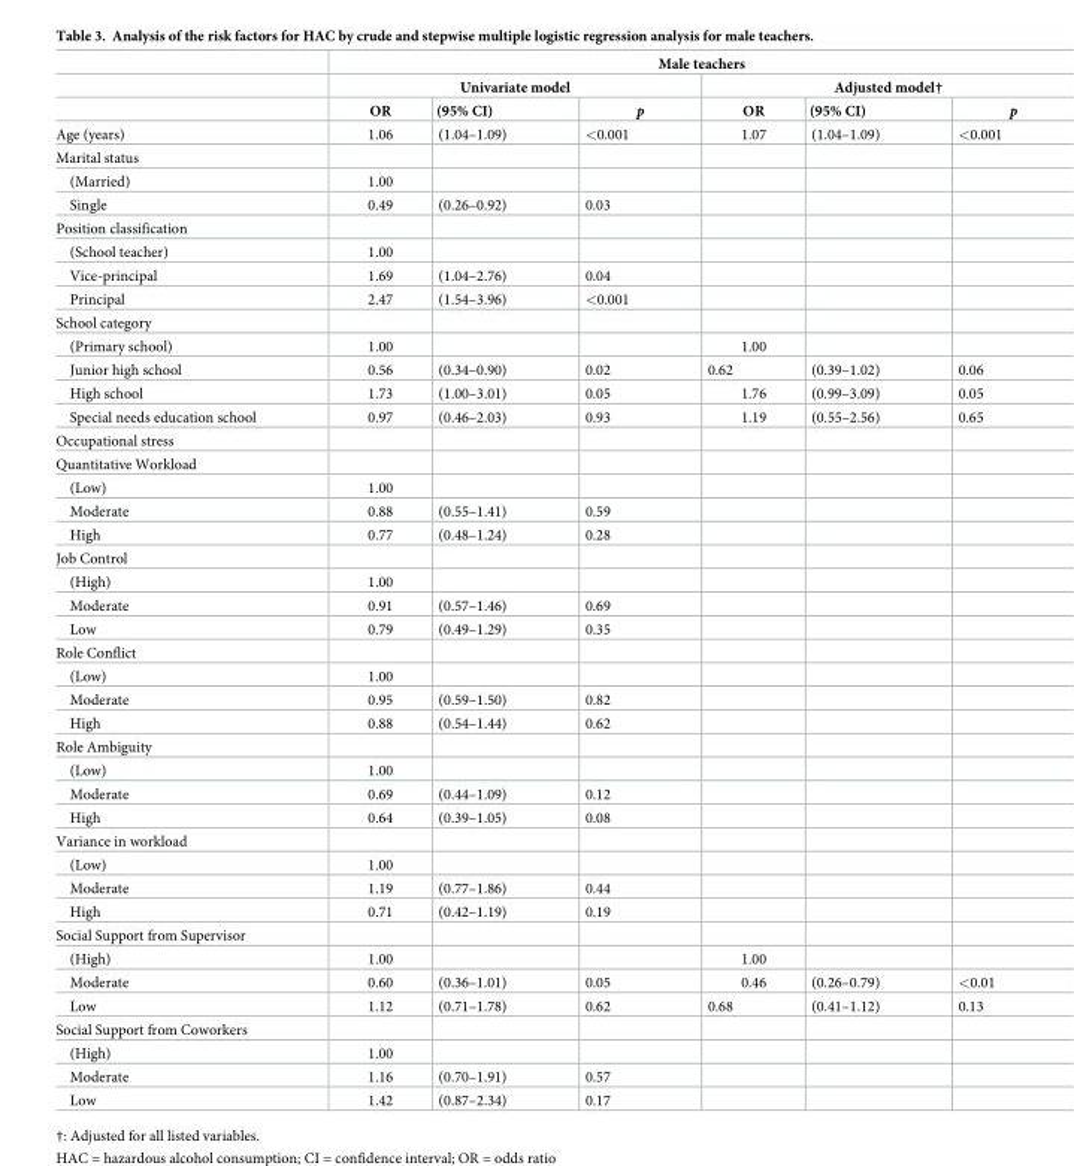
<table><thead><tr><td rowspan="3"></td><td colspan="6">Male teachers</td></tr><tr><td colspan="3">Univariate model</td><td colspan="3">Adjusted model†</td></tr><tr><td>OR</td><td>(95% CI)</td><td>p</td><td>OR</td><td>(95% CI)</td><td>p</td></tr></thead><tbody><tr><td>Age (years)</td><td>1.06</td><td>(1.04–1.09)</td><td>&lt;0.001</td><td>1.07</td><td>(1.04–1.09)</td><td>&lt;0.001</td></tr><tr><td colspan="7">Marital status</td></tr><tr><td>(Married)</td><td>1.00</td><td></td><td></td><td></td><td></td><td></td></tr><tr><td>Single</td><td>0.49</td><td>(0.26–0.92)</td><td>0.03</td><td></td><td></td><td></td></tr><tr><td colspan="7">Position classification</td></tr><tr><td>(School teacher)</td><td>1.00</td><td></td><td></td><td></td><td></td><td></td></tr><tr><td>Vice-principal</td><td>1.69</td><td>(1.04–2.76)</td><td>0.04</td><td></td><td></td><td></td></tr><tr><td>Principal</td><td>2.47</td><td>(1.54–3.96)</td><td>&lt;0.001</td><td></td><td></td><td></td></tr><tr><td colspan="7">School category</td></tr><tr><td>(Primary school)</td><td>1.00</td><td></td><td></td><td>1.00</td><td></td><td></td></tr><tr><td>Junior high school</td><td>0.56</td><td>(0.34–0.90)</td><td>0.02</td><td>0.62</td><td>(0.39–1.02)</td><td>0.06</td></tr><tr><td>High school</td><td>1.73</td><td>(1.00–3.01)</td><td>0.05</td><td>1.76</td><td>(0.99–3.09)</td><td>0.05</td></tr><tr><td>Special needs education school</td><td>0.97</td><td>(0.46–2.03)</td><td>0.93</td><td>1.19</td><td>(0.55–2.56)</td><td>0.65</td></tr><tr><td colspan="7">Occupational stress</td></tr><tr><td colspan="7">Quantitative Workload</td></tr><tr><td>(Low)</td><td>1.00</td><td></td><td></td><td></td><td></td><td></td></tr><tr><td>Moderate</td><td>0.88</td><td>(0.55–1.41)</td><td>0.59</td><td></td><td></td><td></td></tr><tr><td>High</td><td>0.77</td><td>(0.48–1.24)</td><td>0.28</td><td></td><td></td><td></td></tr><tr><td colspan="7">Job Control</td></tr><tr><td>(High)</td><td>1.00</td><td></td><td></td><td></td><td></td><td></td></tr><tr><td>Moderate</td><td>0.91</td><td>(0.57–1.46)</td><td>0.69</td><td></td><td></td><td></td></tr><tr><td>Low</td><td>0.79</td><td>(0.49–1.29)</td><td>0.35</td><td></td><td></td><td></td></tr><tr><td colspan="7">Role Conflict</td></tr><tr><td>(Low)</td><td>1.00</td><td></td><td></td><td></td><td></td><td></td></tr><tr><td>Moderate</td><td>0.95</td><td>(0.59–1.50)</td><td>0.82</td><td></td><td></td><td></td></tr><tr><td>High</td><td>0.88</td><td>(0.54–1.44)</td><td>0.62</td><td></td><td></td><td></td></tr><tr><td colspan="7">Role Ambiguity</td></tr><tr><td>(Low)</td><td>1.00</td><td></td><td></td><td></td><td></td><td></td></tr><tr><td>Moderate</td><td>0.69</td><td>(0.44–1.09)</td><td>0.12</td><td></td><td></td><td></td></tr><tr><td>High</td><td>0.64</td><td>(0.39–1.05)</td><td>0.08</td><td></td><td></td><td></td></tr><tr><td colspan="7">Variance in workload</td></tr><tr><td>(Low)</td><td>1.00</td><td></td><td></td><td></td><td></td><td></td></tr><tr><td>Moderate</td><td>1.19</td><td>(0.77–1.86)</td><td>0.44</td><td></td><td></td><td></td></tr><tr><td>High</td><td>0.71</td><td>(0.42–1.19)</td><td>0.19</td><td></td><td></td><td></td></tr><tr><td colspan="7">Social Support from Supervisor</td></tr><tr><td>(High)</td><td>1.00</td><td></td><td></td><td>1.00</td><td></td><td></td></tr><tr><td>Moderate</td><td>0.60</td><td>(0.36–1.01)</td><td>0.05</td><td>0.46</td><td>(0.26–0.79)</td><td>&lt;0.01</td></tr><tr><td>Low</td><td>1.12</td><td>(0.71–1.78)</td><td>0.62</td><td>0.68</td><td>(0.41–1.12)</td><td>0.13</td></tr><tr><td colspan="7">Social Support from Coworkers</td></tr><tr><td>(High)</td><td>1.00</td><td></td><td></td><td></td><td></td><td></td></tr><tr><td>Moderate</td><td>1.16</td><td>(0.70–1.91)</td><td>0.57</td><td></td><td></td><td></td></tr><tr><td>Low</td><td>1.42</td><td>(0.87–2.34)</td><td>0.17</td><td></td><td></td><td></td></tr></tbody></table>